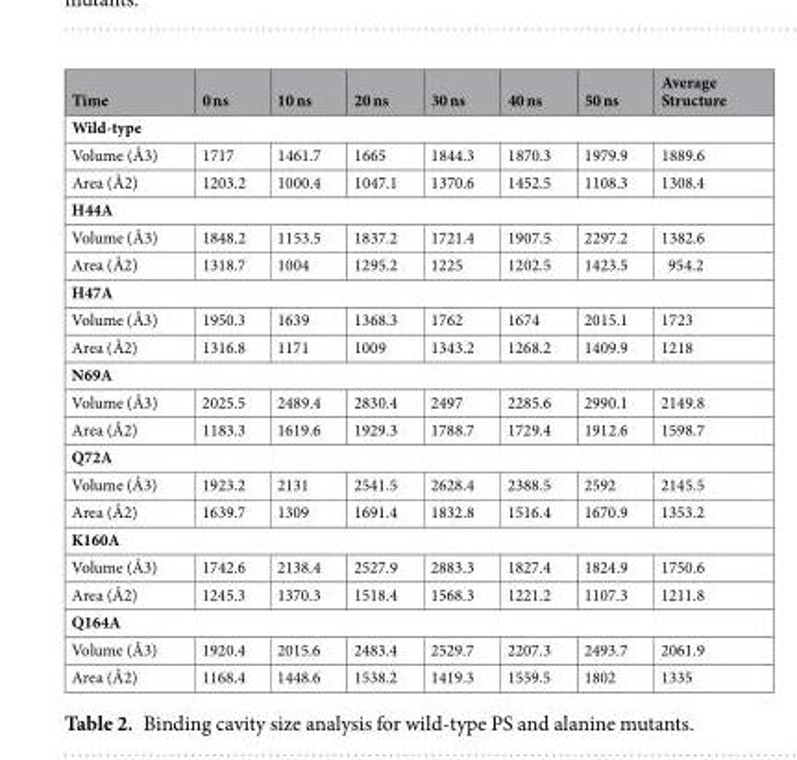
<table><thead><tr><td>Time</td><td>0 ns</td><td>10 ns</td><td>20 ns</td><td>30 ns</td><td>40 ns</td><td>50 ns</td><td>Average Structure</td></tr></thead><tbody><tr><td colspan="8">Wild-type</td></tr><tr><td>Volume (Å3)</td><td>1717</td><td>1461.7</td><td>1665</td><td>1844.3</td><td>1870.3</td><td>1979.9</td><td>1889.6</td></tr><tr><td>Area (Å2)</td><td>1203.2</td><td>1000.4</td><td>1047.1</td><td>1370.6</td><td>1452.5</td><td>1108.3</td><td>1308.4</td></tr><tr><td colspan="8">H44A</td></tr><tr><td>Volume (Å3)</td><td>1848.2</td><td>1153.5</td><td>1837.2</td><td>1721.4</td><td>1907.5</td><td>2297.2</td><td>1382.6</td></tr><tr><td>Area (Å2)</td><td>1318.7</td><td>1004</td><td>1295.2</td><td>1225</td><td>1202.5</td><td>1423.5</td><td>954.2</td></tr><tr><td colspan="8">H47A</td></tr><tr><td>Volume (Å3)</td><td>1950.3</td><td>1639</td><td>1368.3</td><td>1762</td><td>1674</td><td>2015.1</td><td>1723</td></tr><tr><td>Area (Å2)</td><td>1316.8</td><td>1171</td><td>1009</td><td>1343.2</td><td>1268.2</td><td>1409.9</td><td>1218</td></tr><tr><td colspan="8">N69A</td></tr><tr><td>Volume (Å3)</td><td>2025.5</td><td>2489.4</td><td>2830.4</td><td>2497</td><td>2285.6</td><td>2990.1</td><td>2149.8</td></tr><tr><td>Area (Å2)</td><td>1183.3</td><td>1619.6</td><td>1929.3</td><td>1788.7</td><td>1729.4</td><td>1912.6</td><td>1598.7</td></tr><tr><td colspan="8">Q72A</td></tr><tr><td>Volume (Å3)</td><td>1923.2</td><td>2131</td><td>2541.5</td><td>2628.4</td><td>2388.5</td><td>2592</td><td>2145.5</td></tr><tr><td>Area (Å2)</td><td>1639.7</td><td>1309</td><td>1691.4</td><td>1832.8</td><td>1516.4</td><td>1670.9</td><td>1353.2</td></tr><tr><td colspan="8">K160A</td></tr><tr><td>Volume (Å3)</td><td>1742.6</td><td>2138.4</td><td>2527.9</td><td>2883.3</td><td>1827.4</td><td>1824.9</td><td>1750.6</td></tr><tr><td>Area (Å2)</td><td>1245.3</td><td>1370.3</td><td>1518.4</td><td>1568.3</td><td>1221.2</td><td>1107.3</td><td>1211.8</td></tr><tr><td colspan="8">Q164A</td></tr><tr><td>Volume (Å3)</td><td>1920.4</td><td>2015.6</td><td>2483.4</td><td>2529.7</td><td>2207.3</td><td>2493.7</td><td>2061.9</td></tr><tr><td>Area (Å2)</td><td>1168.4</td><td>1448.6</td><td>1538.2</td><td>1419.3</td><td>1559.5</td><td>1802</td><td>1335</td></tr></tbody></table>